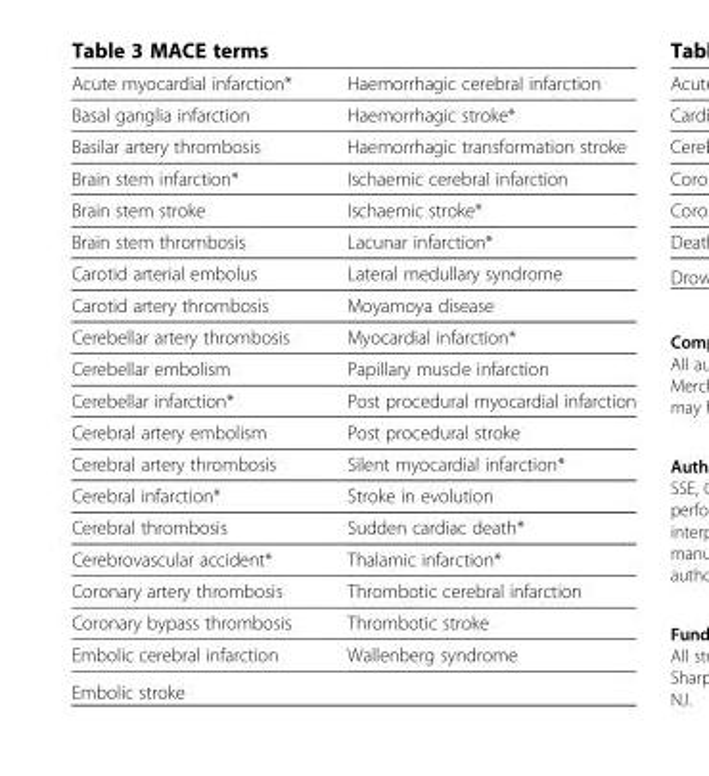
<table><thead><tr><td>Acute myocardial infarction*</td><td>Haemorrhagic cerebral infarction</td></tr></thead><tbody><tr><td>Basal ganglia infarction</td><td>Haemorrhagic stroke*</td></tr><tr><td>Basilar artery thrombosis</td><td>Haemorrhagic transformation stroke</td></tr><tr><td>Brain stem infarction*</td><td>Ischaemic cerebral infarction</td></tr><tr><td>Brain stem stroke</td><td>Ischaemic stroke*</td></tr><tr><td>Brain stem thrombosis</td><td>Lacunar infarction*</td></tr><tr><td>Carotid arterial embolus</td><td>Lateral medullary syndrome</td></tr><tr><td>Carotid artery thrombosis</td><td>Moyamoya disease</td></tr><tr><td>Cerebellar artery thrombosis</td><td>Myocardial infarction*</td></tr><tr><td>Cerebellar embolism</td><td>Papillary muscle infarction</td></tr><tr><td>Cerebellar infarction*</td><td>Post procedural myocardial infarction</td></tr><tr><td>Cerebral artery embolism</td><td>Post procedural stroke</td></tr><tr><td>Cerebral artery thrombosis</td><td>Silent myocardial infarction*</td></tr><tr><td>Cerebral infarction*</td><td>Stroke in evolution</td></tr><tr><td>Cerebral thrombosis</td><td>Sudden cardiac death*</td></tr><tr><td>Cerebrovascular accident*</td><td>Thalamic infarction*</td></tr><tr><td>Coronary artery thrombosis</td><td>Thrombotic cerebral infarction</td></tr><tr><td>Coronary bypass thrombosis</td><td>Thrombotic stroke</td></tr><tr><td>Embolic cerebral infarction</td><td>Wallenberg syndrome</td></tr><tr><td>Embolic stroke</td><td></td></tr></tbody></table>